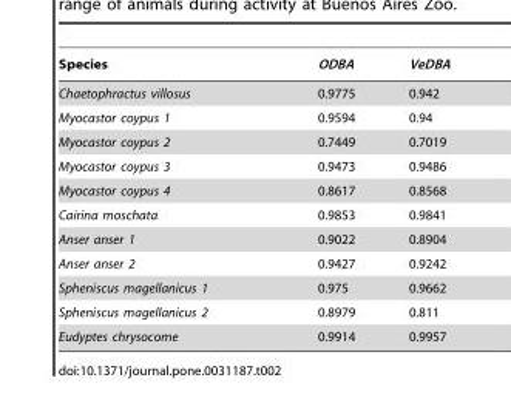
<table><thead><tr><td>Species</td><td>ODBA</td><td>VeDBA</td></tr></thead><tbody><tr><td>Chaetophractus villosus</td><td>0.9775</td><td>0.942</td></tr><tr><td>Myocastor coypus 1</td><td>0.9594</td><td>0.94</td></tr><tr><td>Myocastor coypus 2</td><td>0.7449</td><td>0.7019</td></tr><tr><td>Myocastor coypus 3</td><td>0.9473</td><td>0.9486</td></tr><tr><td>Myocastor coypus 4</td><td>0.8617</td><td>0.8568</td></tr><tr><td>Cairina moschata</td><td>0.9853</td><td>0.9841</td></tr><tr><td>Anser anser 1</td><td>0.9022</td><td>0.8904</td></tr><tr><td>Anser anser 2</td><td>0.9427</td><td>0.9242</td></tr><tr><td>Spheniscus magellanicus 1</td><td>0.975</td><td>0.9662</td></tr><tr><td>Spheniscus magellanicus 2</td><td>0.8979</td><td>0.811</td></tr><tr><td>Eudyptes chrysocome</td><td>0.9914</td><td>0.9957</td></tr></tbody></table>